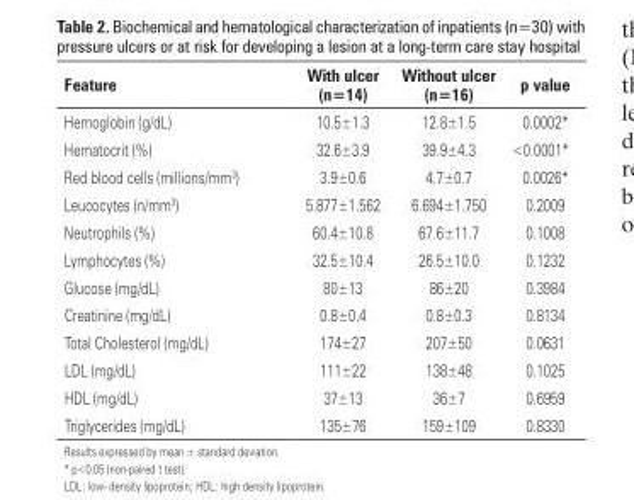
<table><thead><tr><td>Feature</td><td>With ulcer (n=14)</td><td>Without ulcer (n=16)</td><td>p value</td></tr></thead><tbody><tr><td>Hemoglobin (g/dL)</td><td>10.5±1.3</td><td>12.8±1.5</td><td>0.0002*</td></tr><tr><td>Hematocrit (%)</td><td>32.6±3.9</td><td>39.9±4.3</td><td>&lt;0.0001*</td></tr><tr><td>Red blood cells (millions/mm<sup>3</sup>)</td><td>3.9±0.6</td><td>4.7±0.7</td><td>0.0026*</td></tr><tr><td>Leucocytes (n/mm<sup>3</sup>)</td><td>5.877±1.562</td><td>6.694±1.750</td><td>0.2009</td></tr><tr><td>Neutrophils (%)</td><td>60.4±10.8</td><td>67.6±11.7</td><td>0.1008</td></tr><tr><td>Lymphocytes (%)</td><td>32.5±10.4</td><td>26.5±10.0</td><td>0.1232</td></tr><tr><td>Glucose (mg/dL)</td><td>80±13</td><td>86±20</td><td>0.3984</td></tr><tr><td>Creatinine (mg/dL)</td><td>0.8±0.4</td><td>0.8±0.3</td><td>0.8134</td></tr><tr><td>Total Cholesterol (mg/dL)</td><td>174±27</td><td>207±50</td><td>0.0631</td></tr><tr><td>LDL (mg/dL)</td><td>111±22</td><td>138±48</td><td>0.1025</td></tr><tr><td>HDL (mg/dL)</td><td>37±13</td><td>36±7</td><td>0.6959</td></tr><tr><td>Triglycerides (mg/dL)</td><td>135±76</td><td>159±109</td><td>0.8330</td></tr></tbody></table>